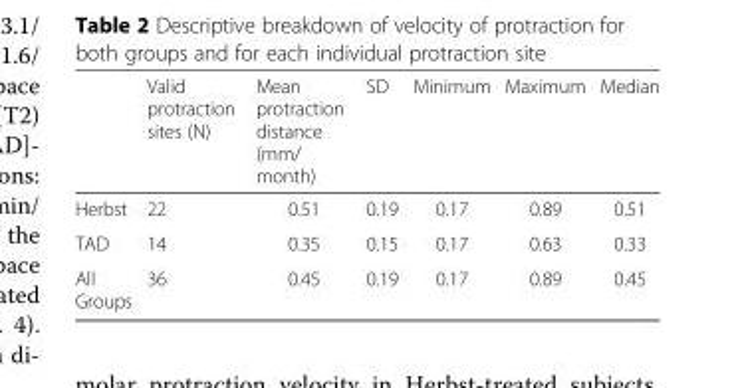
<table><thead><tr><td></td><td>Valid protraction sites (N)</td><td>Mean protraction distance (mm/ month)</td><td>SD</td><td>Minimum</td><td>Maximum</td><td>Median</td></tr></thead><tbody><tr><td>Herbst</td><td>22</td><td>0.51</td><td>0.19</td><td>0.17</td><td>0.89</td><td>0.51</td></tr><tr><td>TAD</td><td>14</td><td>0.35</td><td>0.15</td><td>0.17</td><td>0.63</td><td>0.33</td></tr><tr><td>All Groups</td><td>36</td><td>0.45</td><td>0.19</td><td>0.17</td><td>0.89</td><td>0.45</td></tr></tbody></table>